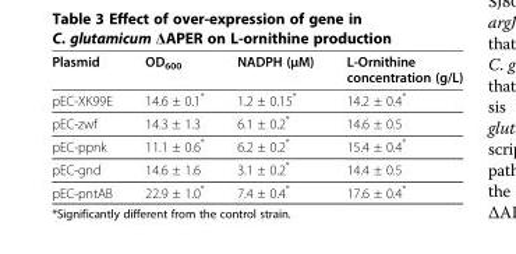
<table><thead><tr><td>Plasmid</td><td>OD<sub>600</sub></td><td>NADPH (μM)</td><td>L-Ornithine concentration (g/L)</td></tr></thead><tbody><tr><td>pEC-XK99E</td><td>14.6 ± 0.1*</td><td>1.2 ± 0.15*</td><td>14.2 ± 0.4*</td></tr><tr><td>pEC-zwf</td><td>14.3 ± 1.3</td><td>6.1 ± 0.2*</td><td>14.6 ± 0.5</td></tr><tr><td>pEC-ppnk</td><td>11.1 ± 0.6*</td><td>6.2 ± 0.2*</td><td>15.4 ± 0.4*</td></tr><tr><td>pEC-gnd</td><td>14.6 ± 1.6</td><td>3.1 ± 0.2*</td><td>14.4 ± 0.5</td></tr><tr><td>pEC-pntAB</td><td>22.9 ± 1.0*</td><td>7.4 ± 0.4*</td><td>17.6 ± 0.4*</td></tr></tbody></table>